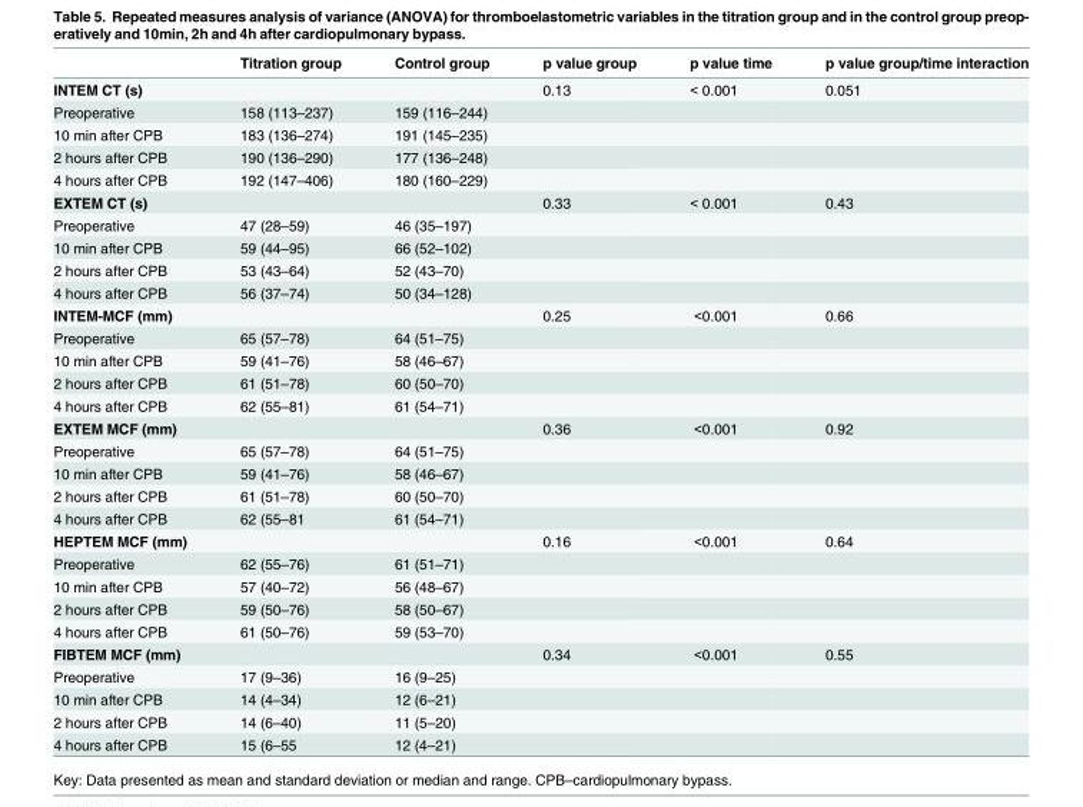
<table><thead><tr><td></td><td>Titration group</td><td>Control group</td><td>p value group</td><td>p value time</td><td>p value group/time interaction</td></tr></thead><tbody><tr><td>INTEM CT (s)</td><td></td><td></td><td>0.13</td><td>&lt; 0.001</td><td>0.051</td></tr><tr><td>Preoperative</td><td>158 (113–237)</td><td>159 (116–244)</td><td></td><td></td><td></td></tr><tr><td>10 min after CPB</td><td>183 (136–274)</td><td>191 (145–235)</td><td></td><td></td><td></td></tr><tr><td>2 hours after CPB</td><td>190 (136–290)</td><td>177 (136–248)</td><td></td><td></td><td></td></tr><tr><td>4 hours after CPB</td><td>192 (147–406)</td><td>180 (160–229)</td><td></td><td></td><td></td></tr><tr><td>EXTEM CT (s)</td><td></td><td></td><td>0.33</td><td>&lt; 0.001</td><td>0.43</td></tr><tr><td>Preoperative</td><td>47 (28–59)</td><td>46 (35–197)</td><td></td><td></td><td></td></tr><tr><td>10 min after CPB</td><td>59 (44–95)</td><td>66 (52–102)</td><td></td><td></td><td></td></tr><tr><td>2 hours after CPB</td><td>53 (43–64)</td><td>52 (43–70)</td><td></td><td></td><td></td></tr><tr><td>4 hours after CPB</td><td>56 (37–74)</td><td>50 (34–128)</td><td></td><td></td><td></td></tr><tr><td>INTEM-MCF (mm)</td><td></td><td></td><td>0.25</td><td>&lt;0.001</td><td>0.66</td></tr><tr><td>Preoperative</td><td>65 (57–78)</td><td>64 (51–75)</td><td></td><td></td><td></td></tr><tr><td>10 min after CPB</td><td>59 (41–76)</td><td>58 (46–67)</td><td></td><td></td><td></td></tr><tr><td>2 hours after CPB</td><td>61 (51–78)</td><td>60 (50–70)</td><td></td><td></td><td></td></tr><tr><td>4 hours after CPB</td><td>62 (55–81)</td><td>61 (54–71)</td><td></td><td></td><td></td></tr><tr><td>EXTEM MCF (mm)</td><td></td><td></td><td>0.36</td><td>&lt;0.001</td><td>0.92</td></tr><tr><td>Preoperative</td><td>65 (57–78)</td><td>64 (51–75)</td><td></td><td></td><td></td></tr><tr><td>10 min after CPB</td><td>59 (41–76)</td><td>58 (46–67)</td><td></td><td></td><td></td></tr><tr><td>2 hours after CPB</td><td>61 (51–78)</td><td>60 (50–70)</td><td></td><td></td><td></td></tr><tr><td>4 hours after CPB</td><td>62 (55–81</td><td>61 (54–71)</td><td></td><td></td><td></td></tr><tr><td>HEPTEM MCF (mm)</td><td></td><td></td><td>0.16</td><td>&lt;0.001</td><td>0.64</td></tr><tr><td>Preoperative</td><td>62 (55–76)</td><td>61 (51–71)</td><td></td><td></td><td></td></tr><tr><td>10 min after CPB</td><td>57 (40–72)</td><td>56 (48–67)</td><td></td><td></td><td></td></tr><tr><td>2 hours after CPB</td><td>59 (50–76)</td><td>58 (50–67)</td><td></td><td></td><td></td></tr><tr><td>4 hours after CPB</td><td>61 (50–76)</td><td>59 (53–70)</td><td></td><td></td><td></td></tr><tr><td>FIBTEM MCF (mm)</td><td></td><td></td><td>0.34</td><td>&lt;0.001</td><td>0.55</td></tr><tr><td>Preoperative</td><td>17 (9–36)</td><td>16 (9–25)</td><td></td><td></td><td></td></tr><tr><td>10 min after CPB</td><td>14 (4–34)</td><td>12 (6–21)</td><td></td><td></td><td></td></tr><tr><td>2 hours after CPB</td><td>14 (6–40)</td><td>11 (5–20)</td><td></td><td></td><td></td></tr><tr><td>4 hours after CPB</td><td>15 (6–55</td><td>12 (4–21)</td><td></td><td></td><td></td></tr></tbody></table>